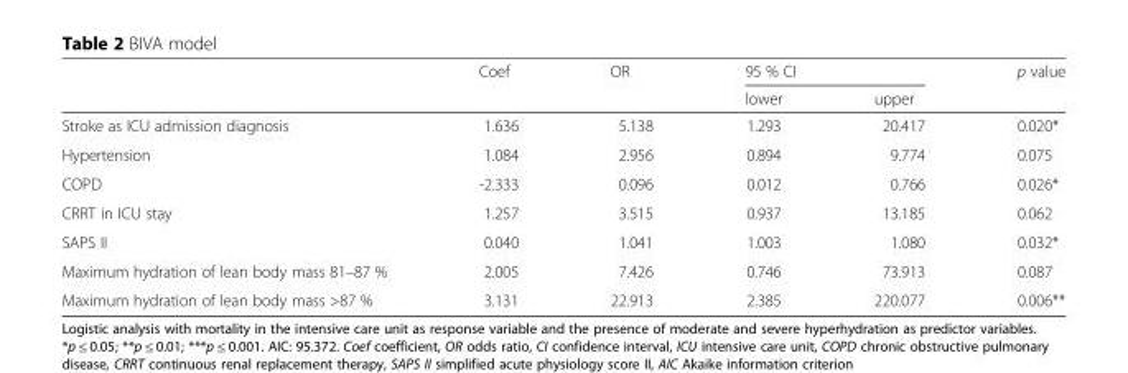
<table><thead><tr><td rowspan="2"></td><td rowspan="2">Coef</td><td rowspan="2">OR</td><td colspan="2">95 % CI</td><td rowspan="2">p value</td></tr><tr><td>lower</td><td>upper</td></tr></thead><tbody><tr><td>Stroke as ICU admission diagnosis</td><td>1.636</td><td>5.138</td><td>1.293</td><td>20.417</td><td>0.020*</td></tr><tr><td>Hypertension</td><td>1.084</td><td>2.956</td><td>0.894</td><td>9.774</td><td>0.075</td></tr><tr><td>COPD</td><td>-2.333</td><td>0.096</td><td>0.012</td><td>0.766</td><td>0.026*</td></tr><tr><td>CRRT in ICU stay</td><td>1.257</td><td>3.515</td><td>0.937</td><td>13.185</td><td>0.062</td></tr><tr><td>SAPS II</td><td>0.040</td><td>1.041</td><td>1.003</td><td>1.080</td><td>0.032*</td></tr><tr><td>Maximum hydration of lean body mass 81–87 %</td><td>2.005</td><td>7.426</td><td>0.746</td><td>73.913</td><td>0.087</td></tr><tr><td>Maximum hydration of lean body mass &gt;87 %</td><td>3.131</td><td>22.913</td><td>2.385</td><td>220.077</td><td>0.006**</td></tr></tbody></table>